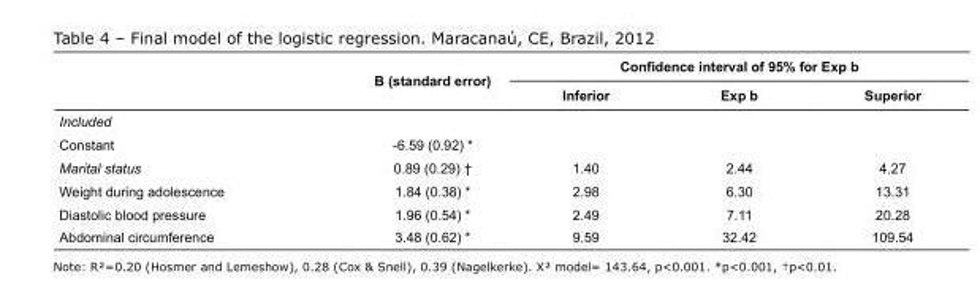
<table><thead><tr><td rowspan="2"></td><td rowspan="2">B (standard error)</td><td colspan="3">Confidence interval of 95% for Exp b</td></tr><tr><td>Inferior</td><td>Exp b</td><td>Superior</td></tr></thead><tbody><tr><td colspan="5">Included</td></tr><tr><td>Constant</td><td>-6.59 (0.92) *</td><td></td><td></td><td></td></tr><tr><td>Marital status</td><td>0.89 (0.29) †</td><td>1.40</td><td>2.44</td><td>4.27</td></tr><tr><td>Weight during adolescence</td><td>1.84 (0.38) *</td><td>2.98</td><td>6.30</td><td>13.31</td></tr><tr><td>Diastolic blood pressure</td><td>1.96 (0.54) *</td><td>2.49</td><td>7.11</td><td>20.28</td></tr><tr><td>Abdominal circumference</td><td>3.48 (0.62) *</td><td>9.59</td><td>32.42</td><td>109.54</td></tr></tbody></table>